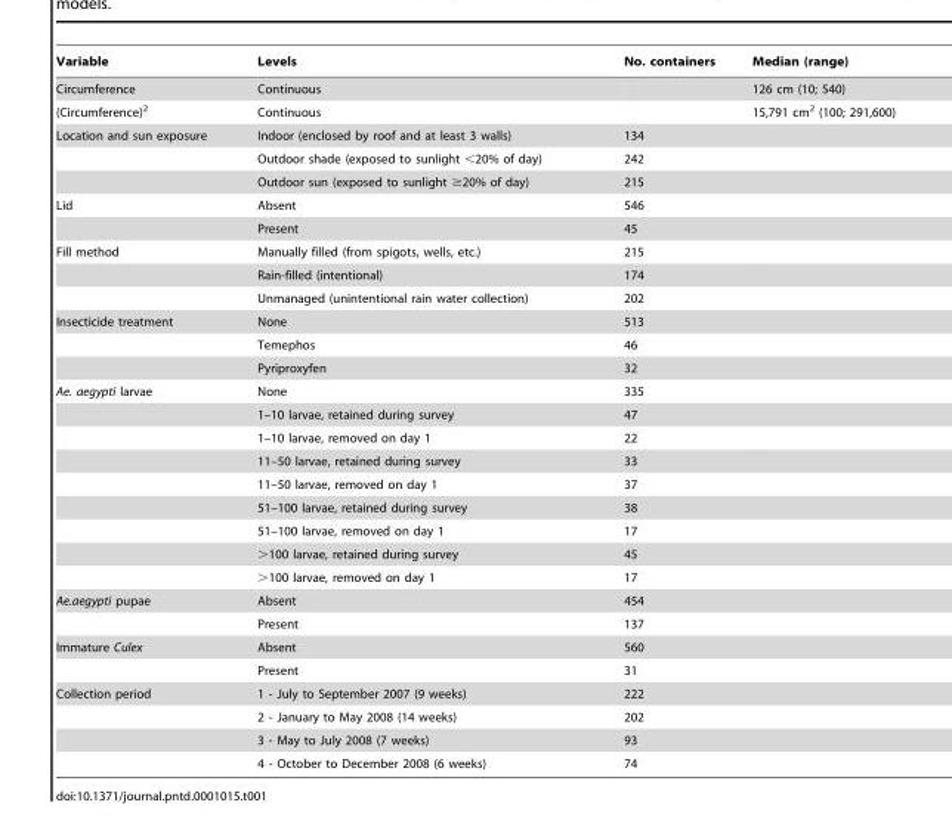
<table><thead><tr><td>Variable</td><td>Levels</td><td>No. containers</td><td>Median (range)</td></tr></thead><tbody><tr><td>Circumference</td><td>Continuous</td><td></td><td>126 cm (10; 540)</td></tr><tr><td>(Circumference)<sup>2</sup></td><td>Continuous</td><td></td><td>15,791 cm<sup>2</sup> (100; 291,600)</td></tr><tr><td rowspan="3">Location and sun exposure</td><td>Indoor (enclosed by roof and at least 3 walls)</td><td>134</td><td></td></tr><tr><td>Outdoor shade (exposed to sunlight &lt;20% of day)</td><td>242</td><td></td></tr><tr><td>Outdoor sun (exposed to sunlight ≥20% of day)</td><td>215</td><td></td></tr><tr><td rowspan="2">Lid</td><td>Absent</td><td>546</td><td></td></tr><tr><td>Present</td><td>45</td><td></td></tr><tr><td rowspan="3">Fill method</td><td>Manually filled (from spigots, wells, etc.)</td><td>215</td><td></td></tr><tr><td>Rain-filled (intentional)</td><td>174</td><td></td></tr><tr><td>Unmanaged (unintentional rain water collection)</td><td>202</td><td></td></tr><tr><td rowspan="3">Insecticide treatment</td><td>None</td><td>513</td><td></td></tr><tr><td>Temephos</td><td>46</td><td></td></tr><tr><td>Pyriproxyfen</td><td>32</td><td></td></tr><tr><td rowspan="9">Ae. aegypti larvae</td><td>None</td><td>335</td><td></td></tr><tr><td>1–10 larvae, retained during survey</td><td>47</td><td></td></tr><tr><td>1–10 larvae, removed on day 1</td><td>22</td><td></td></tr><tr><td>11–50 larvae, retained during survey</td><td>33</td><td></td></tr><tr><td>11–50 larvae, removed on day 1</td><td>37</td><td></td></tr><tr><td>51–100 larvae, retained during survey</td><td>38</td><td></td></tr><tr><td>51–100 larvae, removed on day 1</td><td>17</td><td></td></tr><tr><td>&gt;100 larvae, retained during survey</td><td>45</td><td></td></tr><tr><td>&gt;100 larvae, removed on day 1</td><td>17</td><td></td></tr><tr><td rowspan="2">Ae.aegypti pupae</td><td>Absent</td><td>454</td><td></td></tr><tr><td>Present</td><td>137</td><td></td></tr><tr><td rowspan="2">Immature Culex</td><td>Absent</td><td>560</td><td></td></tr><tr><td>Present</td><td>31</td><td></td></tr><tr><td rowspan="4">Collection period</td><td>1 - July to September 2007 (9 weeks)</td><td>222</td><td></td></tr><tr><td>2 - January to May 2008 (14 weeks)</td><td>202</td><td></td></tr><tr><td>3 - May to July 2008 (7 weeks)</td><td>93</td><td></td></tr><tr><td>4 - October to December 2008 (6 weeks)</td><td>74</td><td></td></tr></tbody></table>